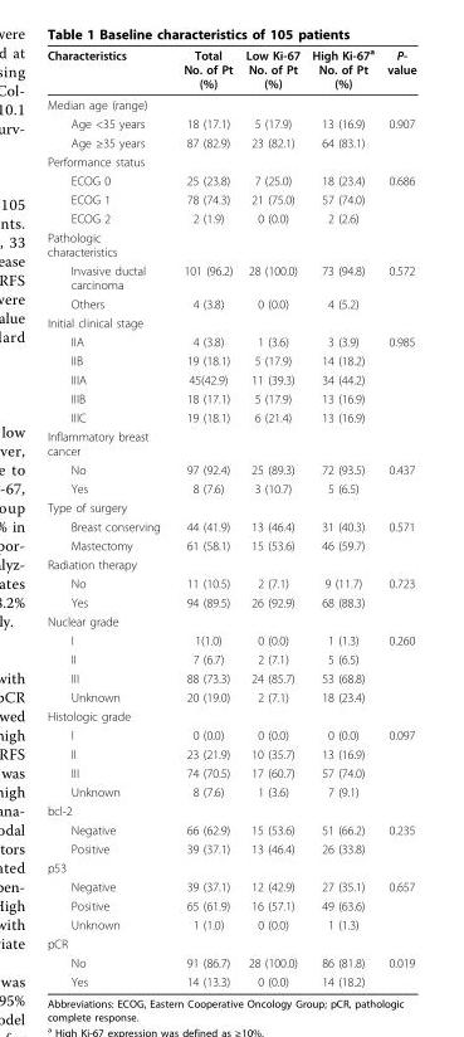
<table><thead><tr><td>Characteristics</td><td>Total No. of Pt (%)</td><td>Low Ki-67 No. of Pt (%)</td><td>High Ki-67<sup>a</sup> No. of Pt (%)</td><td>P- value</td></tr></thead><tbody><tr><td colspan="5">Median age (range)</td></tr><tr><td>Age &lt;35 years</td><td>18 (17.1)</td><td>5 (17.9)</td><td>13 (16.9)</td><td>0.907</td></tr><tr><td>Age ≥35 years</td><td>87 (82.9)</td><td>23 (82.1)</td><td>64 (83.1)</td><td></td></tr><tr><td colspan="5">Performance status</td></tr><tr><td>ECOG 0</td><td>25 (23.8)</td><td>7 (25.0)</td><td>18 (23.4)</td><td>0.686</td></tr><tr><td>ECOG 1</td><td>78 (74.3)</td><td>21 (75.0)</td><td>57 (74.0)</td><td></td></tr><tr><td>ECOG 2</td><td>2 (1.9)</td><td>0 (0.0)</td><td>2 (2.6)</td><td></td></tr><tr><td colspan="5">Pathologic characteristics</td></tr><tr><td>Invasive ductal carcinoma</td><td>101 (96.2)</td><td>28 (100.0)</td><td>73 (94.8)</td><td>0.572</td></tr><tr><td>Others</td><td>4 (3.8)</td><td>0 (0.0)</td><td>4 (5.2)</td><td></td></tr><tr><td colspan="5">Initial clinical stage</td></tr><tr><td>IIA</td><td>4 (3.8)</td><td>1 (3.6)</td><td>3 (3.9)</td><td>0.985</td></tr><tr><td>IIB</td><td>19 (18.1)</td><td>5 (17.9)</td><td>14 (18.2)</td><td></td></tr><tr><td>IIIA</td><td>45(42.9)</td><td>11 (39.3)</td><td>34 (44.2)</td><td></td></tr><tr><td>IIIB</td><td>18 (17.1)</td><td>5 (17.9)</td><td>13 (16.9)</td><td></td></tr><tr><td>IIIC</td><td>19 (18.1)</td><td>6 (21.4)</td><td>13 (16.9)</td><td></td></tr><tr><td colspan="5">Inflammatory breast cancer</td></tr><tr><td>No</td><td>97 (92.4)</td><td>25 (89.3)</td><td>72 (93.5)</td><td>0.437</td></tr><tr><td>Yes</td><td>8 (7.6)</td><td>3 (10.7)</td><td>5 (6.5)</td><td></td></tr><tr><td colspan="5">Type of surgery</td></tr><tr><td>Breast conserving</td><td>44 (41.9)</td><td>13 (46.4)</td><td>31 (40.3)</td><td>0.571</td></tr><tr><td>Mastectomy</td><td>61 (58.1)</td><td>15 (53.6)</td><td>46 (59.7)</td><td></td></tr><tr><td colspan="5">Radiation therapy</td></tr><tr><td>No</td><td>11 (10.5)</td><td>2 (7.1)</td><td>9 (11.7)</td><td>0.723</td></tr><tr><td>Yes</td><td>94 (89.5)</td><td>26 (92.9)</td><td>68 (88.3)</td><td></td></tr><tr><td colspan="5">Nuclear grade</td></tr><tr><td>I</td><td>1(1.0)</td><td>0 (0.0)</td><td>1 (1.3)</td><td>0.260</td></tr><tr><td>II</td><td>7 (6.7)</td><td>2 (7.1)</td><td>5 (6.5)</td><td></td></tr><tr><td>III</td><td>88 (73.3)</td><td>24 (85.7)</td><td>53 (68.8)</td><td></td></tr><tr><td>Unknown</td><td>20 (19.0)</td><td>2 (7.1)</td><td>18 (23.4)</td><td></td></tr><tr><td colspan="5">Histologic grade</td></tr><tr><td>I</td><td>0 (0.0)</td><td>0 (0.0)</td><td>0 (0.0)</td><td>0.097</td></tr><tr><td>II</td><td>23 (21.9)</td><td>10 (35.7)</td><td>13 (16.9)</td><td></td></tr><tr><td>III</td><td>74 (70.5)</td><td>17 (60.7)</td><td>57 (74.0)</td><td></td></tr><tr><td>Unknown</td><td>8 (7.6)</td><td>1 (3.6)</td><td>7 (9.1)</td><td></td></tr><tr><td colspan="5">bcl-2</td></tr><tr><td>Negative</td><td>66 (62.9)</td><td>15 (53.6)</td><td>51 (66.2)</td><td>0.235</td></tr><tr><td>Positive</td><td>39 (37.1)</td><td>13 (46.4)</td><td>26 (33.8)</td><td></td></tr><tr><td colspan="5">p53</td></tr><tr><td>Negative</td><td>39 (37.1)</td><td>12 (42.9)</td><td>27 (35.1)</td><td>0.657</td></tr><tr><td>Positive</td><td>65 (61.9)</td><td>16 (57.1)</td><td>49 (63.6)</td><td></td></tr><tr><td>Unknown</td><td>1 (1.0)</td><td>0 (0.0)</td><td>1 (1.3)</td><td></td></tr><tr><td colspan="5">pCR</td></tr><tr><td>No</td><td>91 (86.7)</td><td>28 (100.0)</td><td>86 (81.8)</td><td>0.019</td></tr><tr><td>Yes</td><td>14 (13.3)</td><td>0 (0.0)</td><td>14 (18.2)</td><td></td></tr></tbody></table>